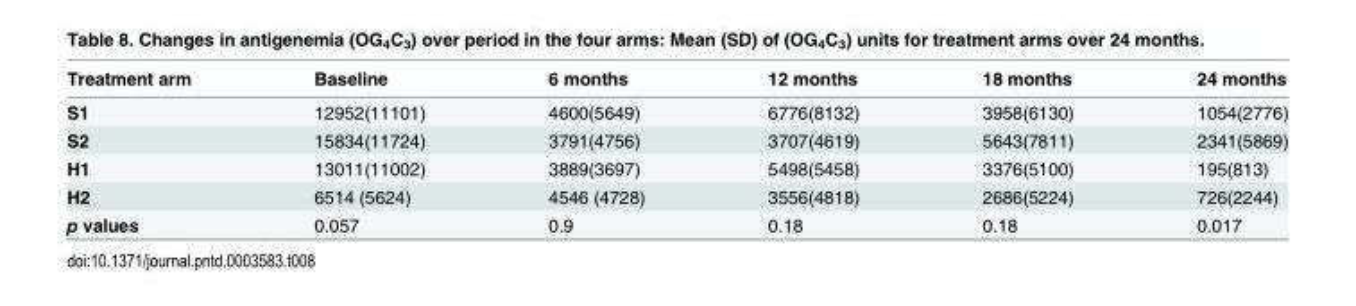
<table><thead><tr><td>Treatment arm</td><td>Baseline</td><td>6 months</td><td>12 months</td><td>18 months</td><td>24 months</td></tr></thead><tbody><tr><td>S1</td><td>12952(11101)</td><td>4600(5649)</td><td>6776(8132)</td><td>3958(6130)</td><td>1054(2776)</td></tr><tr><td>S2</td><td>15834(11724)</td><td>3791(4756)</td><td>3707(4619)</td><td>5643(7811)</td><td>2341(5869)</td></tr><tr><td>H1</td><td>13011(11002)</td><td>3889(3697)</td><td>5498(5458)</td><td>3376(5100)</td><td>195(813)</td></tr><tr><td>H2</td><td>6514 (5624)</td><td>4546 (4728)</td><td>3556(4818)</td><td>2686(5224)</td><td>726(2244)</td></tr><tr><td>p values</td><td>0.057</td><td>0.9</td><td>0.18</td><td>0.18</td><td>0.017</td></tr></tbody></table>